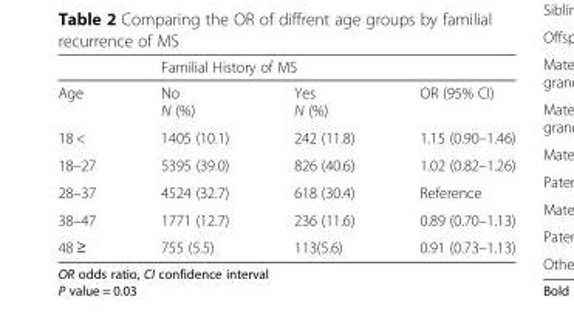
<table><thead><tr><td rowspan="2">Age</td><td colspan="3">Familial History of MS</td></tr><tr><td>No N (%)</td><td>Yes N (%)</td><td>OR (95% CI)</td></tr></thead><tbody><tr><td>18 &lt;</td><td>1405 (10.1)</td><td>242 (11.8)</td><td>1.15 (0.90–1.46)</td></tr><tr><td>18–27</td><td>5395 (39.0)</td><td>826 (40.6)</td><td>1.02 (0.82–1.26)</td></tr><tr><td>28–37</td><td>4524 (32.7)</td><td>618 (30.4)</td><td>Reference</td></tr><tr><td>38–47</td><td>1771 (12.7)</td><td>236 (11.6)</td><td>0.89 (0.70–1.13)</td></tr><tr><td>48 ≥</td><td>755 (5.5)</td><td>113(5.6)</td><td>0.91 (0.73–1.13)</td></tr></tbody></table>